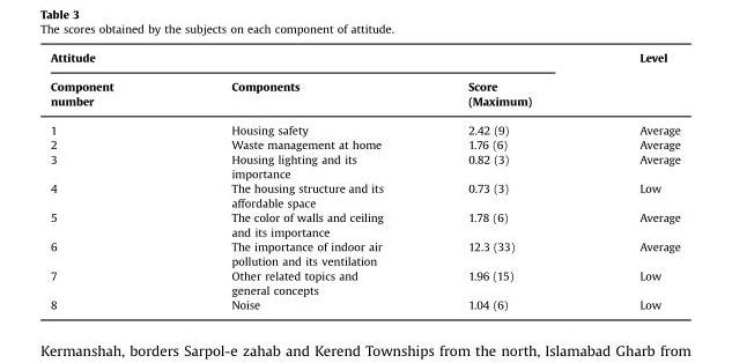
<table><thead><tr><td colspan="3">Attitude</td><td rowspan="2">Level</td></tr><tr><td>Component number</td><td>Components</td><td>Score (Maximum)</td></tr></thead><tbody><tr><td>1</td><td>Housing safety</td><td>2.42 (9)</td><td>Average</td></tr><tr><td>2</td><td>Waste management at home</td><td>1.76 (6)</td><td>Average</td></tr><tr><td>3</td><td>Housing lighting and its importance</td><td>0.82 (3)</td><td>Average</td></tr><tr><td>4</td><td>The housing structure and its affordable space</td><td>0.73 (3)</td><td>Low</td></tr><tr><td>5</td><td>The color of walls and ceiling and its importance</td><td>1.78 (6)</td><td>Average</td></tr><tr><td>6</td><td>The importance of indoor air pollution and its ventilation</td><td>12.3 (33)</td><td>Average</td></tr><tr><td>7</td><td>Other related topics and general concepts</td><td>1.96 (15)</td><td>Low</td></tr><tr><td>8</td><td>Noise</td><td>1.04 (6)</td><td>Low</td></tr></tbody></table>